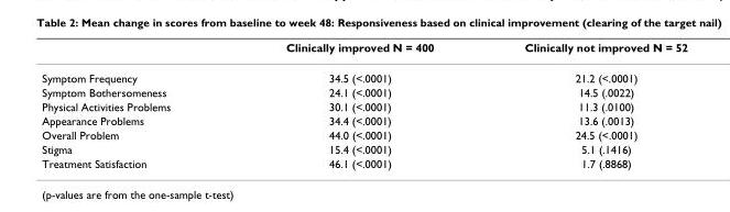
<table><thead><tr><td></td><td>Clinically improved N = 400</td><td>Clinically not improved N = 52</td></tr></thead><tbody><tr><td>Symptom Frequency</td><td>34.5 (&lt;.0001)</td><td>21.2 (&lt;.0001)</td></tr><tr><td>Symptom Bothersomeness</td><td>24.1 (&lt;.0001)</td><td>14.5 (.0022)</td></tr><tr><td>Physical Activities Problems</td><td>30.1 (&lt;.0001)</td><td>11.3 (.0100)</td></tr><tr><td>Appearance Problems</td><td>34.4 (&lt;.0001)</td><td>13.6 (.0013)</td></tr><tr><td>Overall Problem</td><td>44.0 (&lt;.0001)</td><td>24.5 (&lt;.0001)</td></tr><tr><td>Stigma</td><td>15.4 (&lt;.0001)</td><td>5.1 (.1416)</td></tr><tr><td>Treatment Satisfaction</td><td>46.1 (&lt;.0001)</td><td>1.7 (.8868)</td></tr></tbody></table>